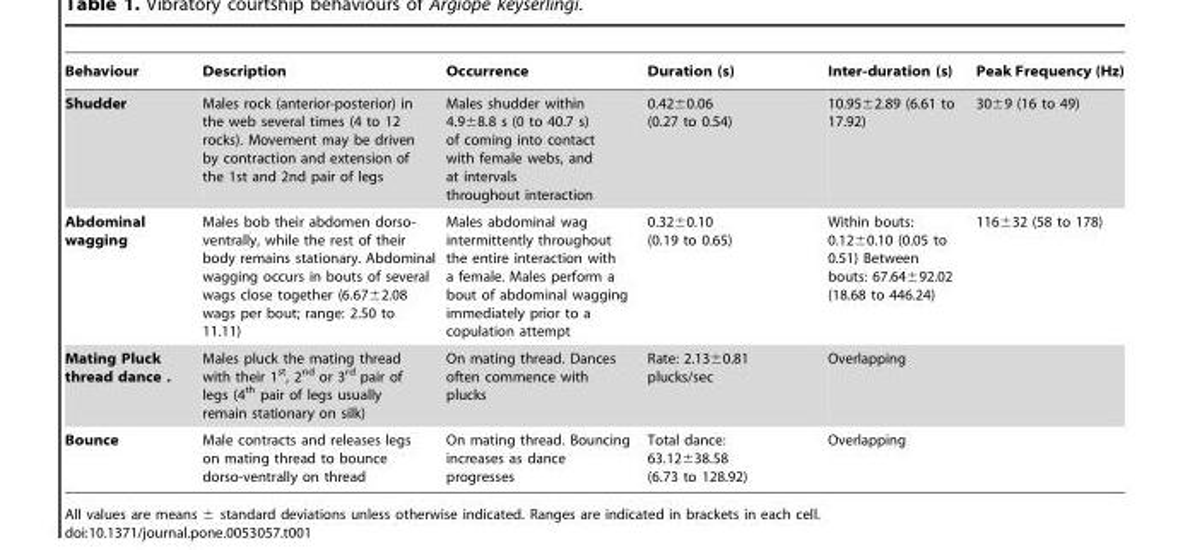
<table><thead><tr><td>Behaviour</td><td>Description</td><td>Occurrence</td><td>Duration (s)</td><td>Inter-duration (s)</td><td>Peak Frequency (Hz)</td></tr></thead><tbody><tr><td>Shudder</td><td>Males rock (anterior-posterior) in the web several times (4 to 12 rocks). Movement may be driven by contraction and extension of the 1st and 2nd pair of legs</td><td>Males shudder within 4.9±8.8 s (0 to 40.7 s) of coming into contact with female webs, and at intervals throughout interaction</td><td>0.42±0.06 (0.27 to 0.54)</td><td>10.95±2.89 (6.61 to 17.92)</td><td>30±9 (16 to 49)</td></tr><tr><td>Abdominal wagging</td><td>Males bob their abdomen dorso- ventrally, while the rest of their body remains stationary. Abdominal wagging occurs in bouts of several wags close together (6.67±2.08 wags per bout; range: 2.50 to 11.11)</td><td>Males abdominal wag intermittently throughout the entire interaction with a female. Males perform a bout of abdominal wagging immediately prior to a copulation attempt</td><td>0.32±0.10 (0.19 to 0.65)</td><td>Within bouts: 0.12±0.10 (0.05 to 0.51) Between bouts: 67.64±92.02 (18.68 to 446.24)</td><td>116±32 (58 to 178)</td></tr><tr><td>Mating Pluck thread dance .</td><td>Males pluck the mating thread with their 1<sup>st</sup>, 2<sup>nd</sup> or 3<sup>rd</sup> pair of legs (4<sup>th</sup> pair of legs usually remain stationary on silk)</td><td>On mating thread. Dances often commence with plucks</td><td>Rate: 2.13±0.81 plucks/sec</td><td>Overlapping</td><td></td></tr><tr><td>Bounce</td><td>Male contracts and releases legs on mating thread to bounce dorso-ventrally on thread</td><td>On mating thread. Bouncing increases as dance progresses</td><td>Total dance: 63.12±38.58 (6.73 to 128.92)</td><td>Overlapping</td><td></td></tr></tbody></table>